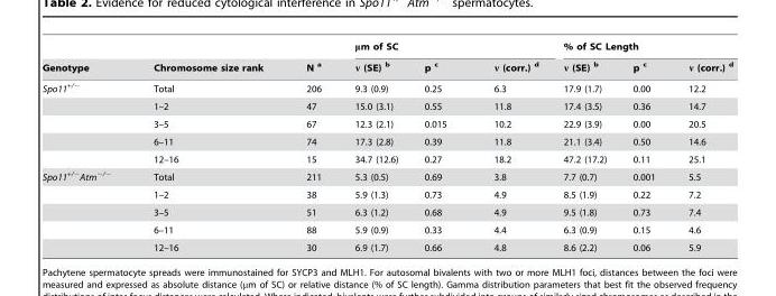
<table><thead><tr><td rowspan="2">Genotype</td><td rowspan="2">Chromosome size rank</td><td rowspan="2">N a</td><td colspan="3">μm of SC</td><td colspan="3">% of SC Length</td></tr><tr><td>ν (SE) b</td><td>p c</td><td>ν (corr.) d</td><td>ν (SE) b</td><td>p c</td><td>ν (corr.) d</td></tr></thead><tbody><tr><td rowspan="5">Spo11<sup>+/−</sup></td><td>Total</td><td>206</td><td>9.3 (0.9)</td><td>0.25</td><td>6.3</td><td>17.9 (1.7)</td><td>0.00</td><td>12.2</td></tr><tr><td>1–2</td><td>47</td><td>15.0 (3.1)</td><td>0.55</td><td>11.8</td><td>17.4 (3.5)</td><td>0.36</td><td>14.7</td></tr><tr><td>3–5</td><td>67</td><td>12.3 (2.1)</td><td>0.015</td><td>10.2</td><td>22.9 (3.9)</td><td>0.00</td><td>20.5</td></tr><tr><td>6–11</td><td>74</td><td>17.3 (2.8)</td><td>0.39</td><td>11.8</td><td>21.1 (3.4)</td><td>0.50</td><td>14.6</td></tr><tr><td>12–16</td><td>15</td><td>34.7 (12.6)</td><td>0.27</td><td>18.2</td><td>47.2 (17.2)</td><td>0.11</td><td>25.1</td></tr><tr><td rowspan="5">Spo11<sup>+/−</sup>Atm<sup>−/−</sup></td><td>Total</td><td>211</td><td>5.3 (0.5)</td><td>0.69</td><td>3.8</td><td>7.7 (0.7)</td><td>0.001</td><td>5.5</td></tr><tr><td>1–2</td><td>38</td><td>5.9 (1.3)</td><td>0.73</td><td>4.9</td><td>8.5 (1.9)</td><td>0.22</td><td>7.2</td></tr><tr><td>3–5</td><td>51</td><td>6.3 (1.2)</td><td>0.68</td><td>4.9</td><td>9.5 (1.8)</td><td>0.73</td><td>7.4</td></tr><tr><td>6–11</td><td>88</td><td>5.9 (0.9)</td><td>0.33</td><td>4.4</td><td>6.3 (0.9)</td><td>0.15</td><td>4.6</td></tr><tr><td>12–16</td><td>30</td><td>6.9 (1.7)</td><td>0.66</td><td>4.8</td><td>8.6 (2.2)</td><td>0.06</td><td>5.9</td></tr></tbody></table>